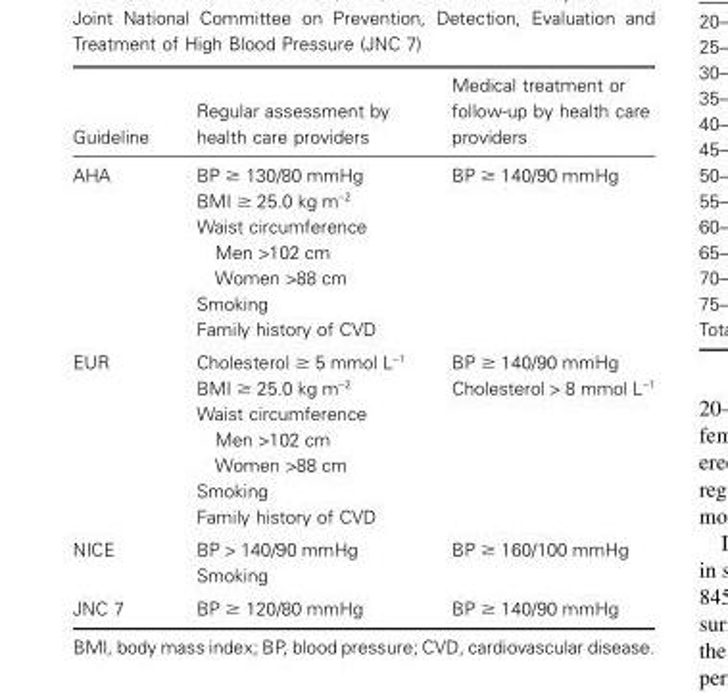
<table><thead><tr><td>Guideline</td><td>Regular assessment by health care providers</td><td>Medical treatment or follow-up by health care providers</td></tr></thead><tbody><tr><td rowspan="7">AHA</td><td>BP ≥ 130/80 mmHg</td><td>BP ≥ 140/90 mmHg</td></tr><tr><td>BMI ≥ 25.0 kg m<sup>-2</sup></td><td></td></tr><tr><td>Waist circumference</td><td></td></tr><tr><td>Men &gt;102 cm</td><td></td></tr><tr><td>Women &gt;88 cm</td><td></td></tr><tr><td>Smoking</td><td></td></tr><tr><td>Family history of CVD</td><td></td></tr><tr><td rowspan="7">EUR</td><td>Cholesterol ≥ 5 mmol L<sup>-1</sup></td><td>BP ≥ 140/90 mmHg</td></tr><tr><td>BMI ≥ 25.0 kg m<sup>-2</sup></td><td>Cholesterol &gt; 8 mmol L<sup>-1</sup></td></tr><tr><td>Waist circumference</td><td></td></tr><tr><td>Men &gt;102 cm</td><td></td></tr><tr><td>Women &gt;88 cm</td><td></td></tr><tr><td>Smoking</td><td></td></tr><tr><td>Family history of CVD</td><td></td></tr><tr><td rowspan="2">NICE</td><td>BP &gt; 140/90 mmHg</td><td>BP ≥ 160/100 mmHg</td></tr><tr><td>Smoking</td><td></td></tr><tr><td>JNC 7</td><td>BP ≥ 120/80 mmHg</td><td>BP ≥ 140/90 mmHg</td></tr></tbody></table>